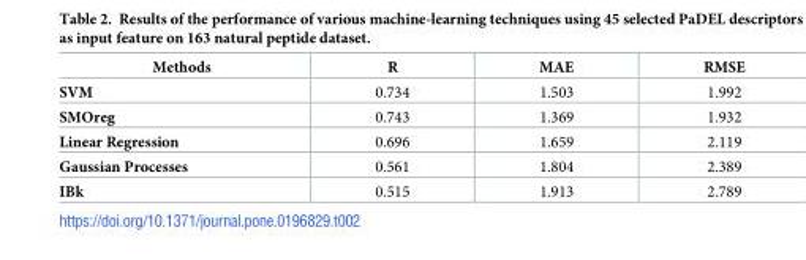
<table><thead><tr><td>Methods</td><td>R</td><td>MAE</td><td>RMSE</td></tr></thead><tbody><tr><td>SVM</td><td>0.734</td><td>1.503</td><td>1.992</td></tr><tr><td>SMOreg</td><td>0.743</td><td>1.369</td><td>1.932</td></tr><tr><td>Linear Regression</td><td>0.696</td><td>1.659</td><td>2.119</td></tr><tr><td>Gaussian Processes</td><td>0.561</td><td>1.804</td><td>2.389</td></tr><tr><td>IBk</td><td>0.515</td><td>1.913</td><td>2.789</td></tr></tbody></table>